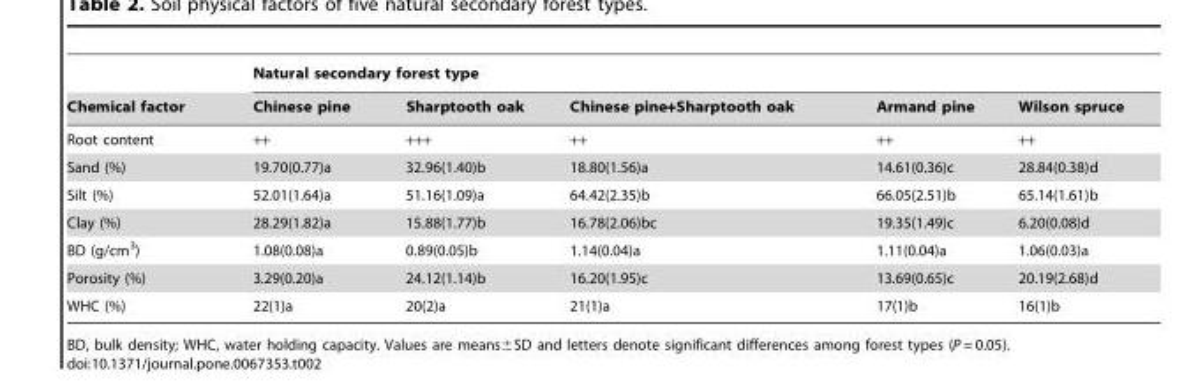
<table><thead><tr><td rowspan="2">Chemical factor</td><td colspan="5">Natural secondary forest type</td></tr><tr><td>Chinese pine</td><td>Sharptooth oak</td><td>Chinese pine+Sharptooth oak</td><td>Armand pine</td><td>Wilson spruce</td></tr></thead><tbody><tr><td>Root content</td><td>++</td><td>+++</td><td>++</td><td>++</td><td>++</td></tr><tr><td>Sand (%)</td><td>19.70(0.77)a</td><td>32.96(1.40)b</td><td>18.80(1.56)a</td><td>14.61(0.36)c</td><td>28.84(0.38)d</td></tr><tr><td>Silt (%)</td><td>52.01(1.64)a</td><td>51.16(1.09)a</td><td>64.42(2.35)b</td><td>66.05(2.51)b</td><td>65.14(1.61)b</td></tr><tr><td>Clay (%)</td><td>28.29(1.82)a</td><td>15.88(1.77)b</td><td>16.78(2.06)bc</td><td>19.35(1.49)c</td><td>6.20(0.08)d</td></tr><tr><td>BD (g/cm<sup>3</sup>)</td><td>1.08(0.08)a</td><td>0.89(0.05)b</td><td>1.14(0.04)a</td><td>1.11(0.04)a</td><td>1.06(0.03)a</td></tr><tr><td>Porosity (%)</td><td>3.29(0.20)a</td><td>24.12(1.14)b</td><td>16.20(1.95)c</td><td>13.69(0.65)c</td><td>20.19(2.68)d</td></tr><tr><td>WHC (%)</td><td>22(1)a</td><td>20(2)a</td><td>21(1)a</td><td>17(1)b</td><td>16(1)b</td></tr></tbody></table>